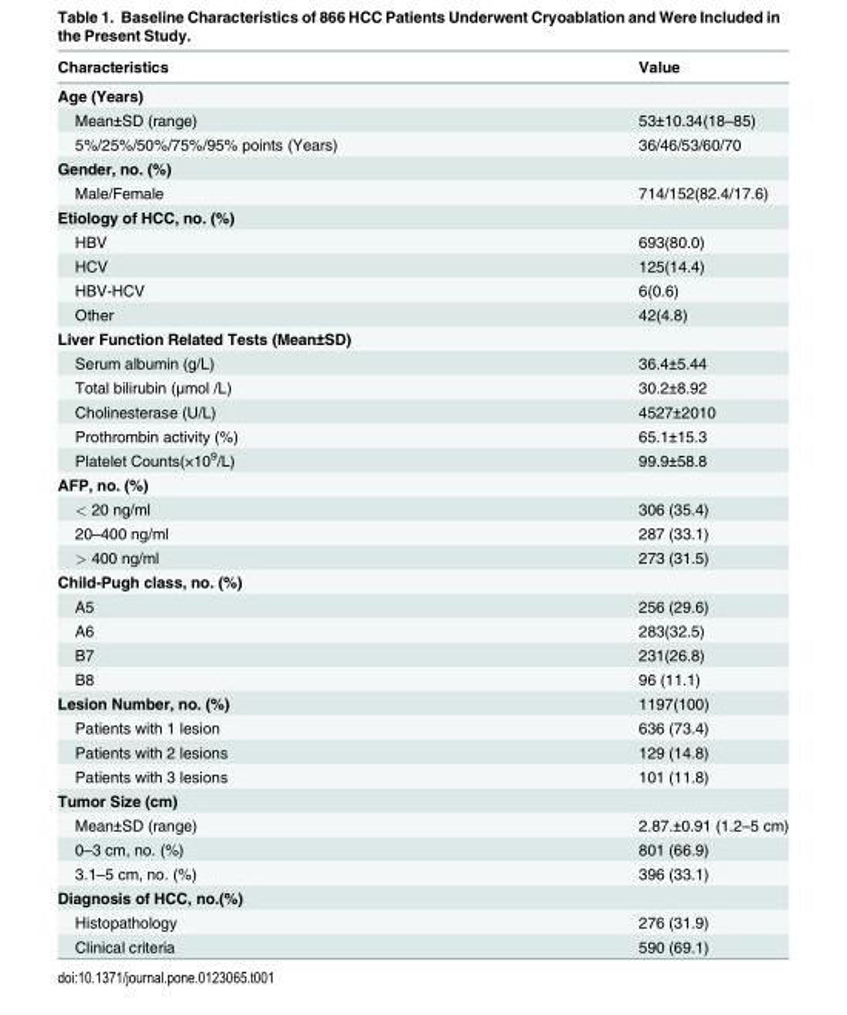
<table><thead><tr><td>Characteristics</td><td>Value</td></tr></thead><tbody><tr><td colspan="2">Age (Years)</td></tr><tr><td>Mean±SD (range)</td><td>53±10.34(18–85)</td></tr><tr><td>5%/25%/50%/75%/95% points (Years)</td><td>36/46/53/60/70</td></tr><tr><td colspan="2">Gender, no. (%)</td></tr><tr><td>Male/Female</td><td>714/152(82.4/17.6)</td></tr><tr><td colspan="2">Etiology of HCC, no. (%)</td></tr><tr><td>HBV</td><td>693(80.0)</td></tr><tr><td>HCV</td><td>125(14.4)</td></tr><tr><td>HBV-HCV</td><td>6(0.6)</td></tr><tr><td>Other</td><td>42(4.8)</td></tr><tr><td colspan="2">Liver Function Related Tests (Mean±SD)</td></tr><tr><td>Serum albumin (g/L)</td><td>36.4±5.44</td></tr><tr><td>Total bilirubin (μmol /L)</td><td>30.2±8.92</td></tr><tr><td>Cholinesterase (U/L)</td><td>4527±2010</td></tr><tr><td>Prothrombin activity (%)</td><td>65.1±15.3</td></tr><tr><td>Platelet Counts(×10<sup>9</sup>/L)</td><td>99.9±58.8</td></tr><tr><td colspan="2">AFP, no. (%)</td></tr><tr><td>&lt; 20 ng/ml</td><td>306 (35.4)</td></tr><tr><td>20–400 ng/ml</td><td>287 (33.1)</td></tr><tr><td>&gt; 400 ng/ml</td><td>273 (31.5)</td></tr><tr><td colspan="2">Child-Pugh class, no. (%)</td></tr><tr><td>A5</td><td>256 (29.6)</td></tr><tr><td>A6</td><td>283(32.5)</td></tr><tr><td>B7</td><td>231(26.8)</td></tr><tr><td>B8</td><td>96 (11.1)</td></tr><tr><td>Lesion Number, no. (%)</td><td>1197(100)</td></tr><tr><td>Patients with 1 lesion</td><td>636 (73.4)</td></tr><tr><td>Patients with 2 lesions</td><td>129 (14.8)</td></tr><tr><td>Patients with 3 lesions</td><td>101 (11.8)</td></tr><tr><td colspan="2">Tumor Size (cm)</td></tr><tr><td>Mean±SD (range)</td><td>2.87.±0.91 (1.2–5 cm)</td></tr><tr><td>0–3 cm, no. (%)</td><td>801 (66.9)</td></tr><tr><td>3.1–5 cm, no. (%)</td><td>396 (33.1)</td></tr><tr><td colspan="2">Diagnosis of HCC, no.(%)</td></tr><tr><td>Histopathology</td><td>276 (31.9)</td></tr><tr><td>Clinical criteria</td><td>590 (69.1)</td></tr></tbody></table>